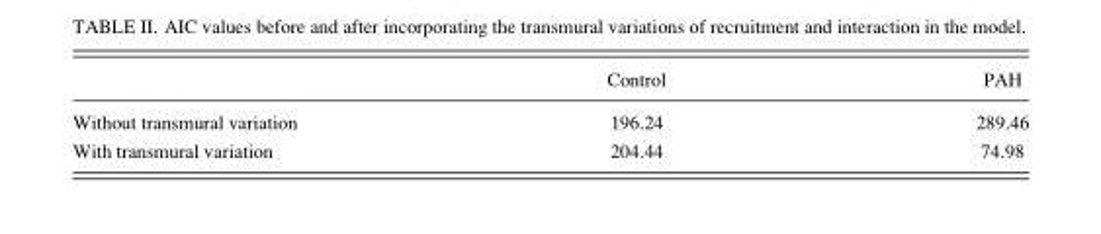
<table><thead><tr><td></td><td>Control</td><td>PAH</td></tr></thead><tbody><tr><td>Without transmural variation</td><td>196.24</td><td>289.46</td></tr><tr><td>With transmural variation</td><td>204.44</td><td>74.98</td></tr></tbody></table>